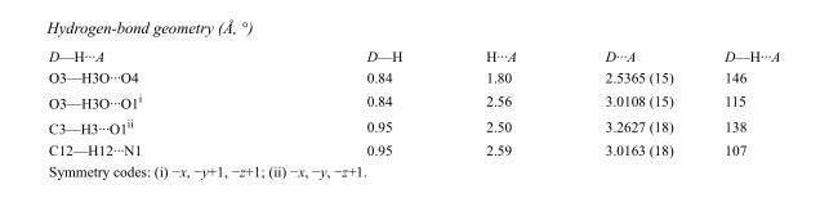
<table><tbody><tr><td>D—H···A</td><td>D—H</td><td>H···A</td><td>D···A</td><td>D—H···A</td></tr><tr><td>O3—H3O···O4</td><td>0.84</td><td>1.80</td><td>2.5365 (15)</td><td>146</td></tr><tr><td>O3—H3O···O1<sup>i</sup></td><td>0.84</td><td>2.56</td><td>3.0108 (15)</td><td>115</td></tr><tr><td>C3—H3···O1<sup>ii</sup></td><td>0.95</td><td>2.50</td><td>3.2627 (18)</td><td>138</td></tr><tr><td>C12—H12···N1</td><td>0.95</td><td>2.59</td><td>3.0163 (18)</td><td>107</td></tr></tbody></table>